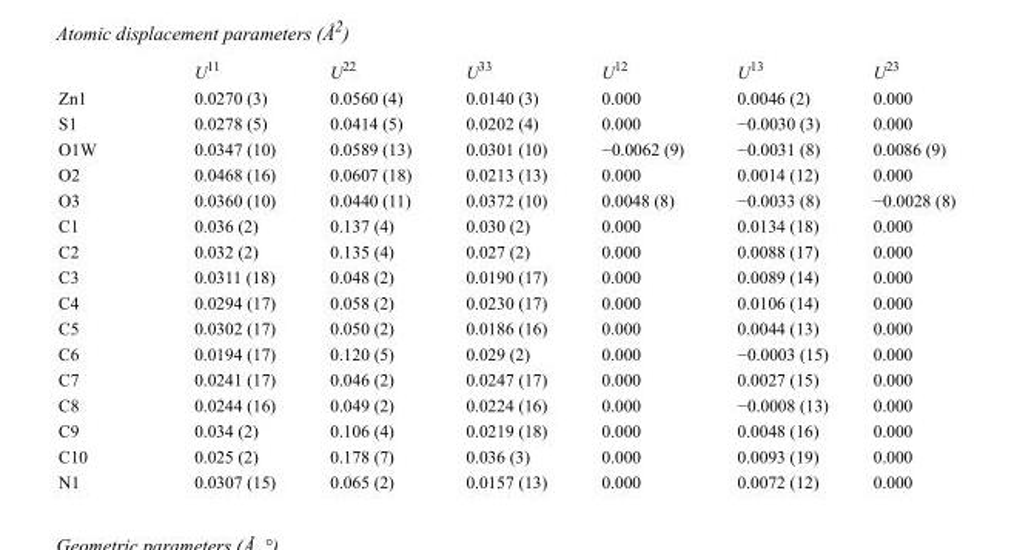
<table><thead><tr><td></td><td>U<sup>11</sup></td><td>U<sup>22</sup></td><td>U<sup>33</sup></td><td>U<sup>12</sup></td><td>U<sup>13</sup></td><td>U<sup>23</sup></td></tr></thead><tbody><tr><td>Zn1</td><td>0.0270 (3)</td><td>0.0560 (4)</td><td>0.0140 (3)</td><td>0.000</td><td>0.0046 (2)</td><td>0.000</td></tr><tr><td>S1</td><td>0.0278 (5)</td><td>0.0414 (5)</td><td>0.0202 (4)</td><td>0.000</td><td>−0.0030 (3)</td><td>0.000</td></tr><tr><td>O1W</td><td>0.0347 (10)</td><td>0.0589 (13)</td><td>0.0301 (10)</td><td>−0.0062 (9)</td><td>−0.0031 (8)</td><td>0.0086 (9)</td></tr><tr><td>O2</td><td>0.0468 (16)</td><td>0.0607 (18)</td><td>0.0213 (13)</td><td>0.000</td><td>0.0014 (12)</td><td>0.000</td></tr><tr><td>O3</td><td>0.0360 (10)</td><td>0.0440 (11)</td><td>0.0372 (10)</td><td>0.0048 (8)</td><td>−0.0033 (8)</td><td>−0.0028 (8)</td></tr><tr><td>C1</td><td>0.036 (2)</td><td>0.137 (4)</td><td>0.030 (2)</td><td>0.000</td><td>0.0134 (18)</td><td>0.000</td></tr><tr><td>C2</td><td>0.032 (2)</td><td>0.135 (4)</td><td>0.027 (2)</td><td>0.000</td><td>0.0088 (17)</td><td>0.000</td></tr><tr><td>C3</td><td>0.0311 (18)</td><td>0.048 (2)</td><td>0.0190 (17)</td><td>0.000</td><td>0.0089 (14)</td><td>0.000</td></tr><tr><td>C4</td><td>0.0294 (17)</td><td>0.058 (2)</td><td>0.0230 (17)</td><td>0.000</td><td>0.0106 (14)</td><td>0.000</td></tr><tr><td>C5</td><td>0.0302 (17)</td><td>0.050 (2)</td><td>0.0186 (16)</td><td>0.000</td><td>0.0044 (13)</td><td>0.000</td></tr><tr><td>C6</td><td>0.0194 (17)</td><td>0.120 (5)</td><td>0.029 (2)</td><td>0.000</td><td>−0.0003 (15)</td><td>0.000</td></tr><tr><td>C7</td><td>0.0241 (17)</td><td>0.046 (2)</td><td>0.0247 (17)</td><td>0.000</td><td>0.0027 (15)</td><td>0.000</td></tr><tr><td>C8</td><td>0.0244 (16)</td><td>0.049 (2)</td><td>0.0224 (16)</td><td>0.000</td><td>−0.0008 (13)</td><td>0.000</td></tr><tr><td>C9</td><td>0.034 (2)</td><td>0.106 (4)</td><td>0.0219 (18)</td><td>0.000</td><td>0.0048 (16)</td><td>0.000</td></tr><tr><td>C10</td><td>0.025 (2)</td><td>0.178 (7)</td><td>0.036 (3)</td><td>0.000</td><td>0.0093 (19)</td><td>0.000</td></tr><tr><td>N1</td><td>0.0307 (15)</td><td>0.065 (2)</td><td>0.0157 (13)</td><td>0.000</td><td>0.0072 (12)</td><td>0.000</td></tr></tbody></table>